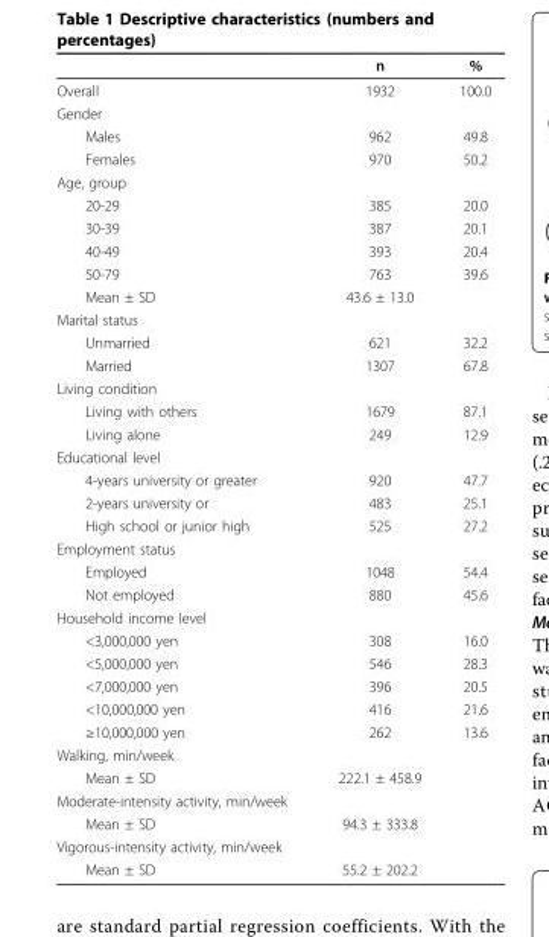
<table><thead><tr><td></td><td>n</td><td>%</td></tr></thead><tbody><tr><td>Overall</td><td>1932</td><td>100.0</td></tr><tr><td colspan="3">Gender</td></tr><tr><td>Males</td><td>962</td><td>49.8</td></tr><tr><td>Females</td><td>970</td><td>50.2</td></tr><tr><td colspan="3">Age, group</td></tr><tr><td>20-29</td><td>385</td><td>20.0</td></tr><tr><td>30-39</td><td>387</td><td>20.1</td></tr><tr><td>40-49</td><td>393</td><td>20.4</td></tr><tr><td>50-79</td><td>763</td><td>39.6</td></tr><tr><td>Mean ± SD</td><td>43.6 ± 13.0</td><td></td></tr><tr><td colspan="3">Marital status</td></tr><tr><td>Unmarried</td><td>621</td><td>32.2</td></tr><tr><td>Married</td><td>1307</td><td>67.8</td></tr><tr><td colspan="3">Living condition</td></tr><tr><td>Living with others</td><td>1679</td><td>87.1</td></tr><tr><td>Living alone</td><td>249</td><td>12.9</td></tr><tr><td colspan="3">Educational level</td></tr><tr><td>4-years university or greater</td><td>920</td><td>47.7</td></tr><tr><td>2-years university or</td><td>483</td><td>25.1</td></tr><tr><td>High school or junior high</td><td>525</td><td>27.2</td></tr><tr><td colspan="3">Employment status</td></tr><tr><td>Employed</td><td>1048</td><td>54.4</td></tr><tr><td>Not employed</td><td>880</td><td>45.6</td></tr><tr><td colspan="3">Household income level</td></tr><tr><td>&lt;3,000,000 yen</td><td>308</td><td>16.0</td></tr><tr><td>&lt;5,000,000 yen</td><td>546</td><td>28.3</td></tr><tr><td>&lt;7,000,000 yen</td><td>396</td><td>20.5</td></tr><tr><td>&lt;10,000,000 yen</td><td>416</td><td>21.6</td></tr><tr><td>≥10,000,000 yen</td><td>262</td><td>13.6</td></tr><tr><td colspan="3">Walking, min/week</td></tr><tr><td>Mean ± SD</td><td>222.1 ± 458.9</td><td></td></tr><tr><td colspan="3">Moderate-intensity activity, min/week</td></tr><tr><td>Mean ± SD</td><td>94.3 ± 333.8</td><td></td></tr><tr><td colspan="3">Vigorous-intensity activity, min/week</td></tr><tr><td>Mean ± SD</td><td>55.2 ± 202.2</td><td></td></tr></tbody></table>